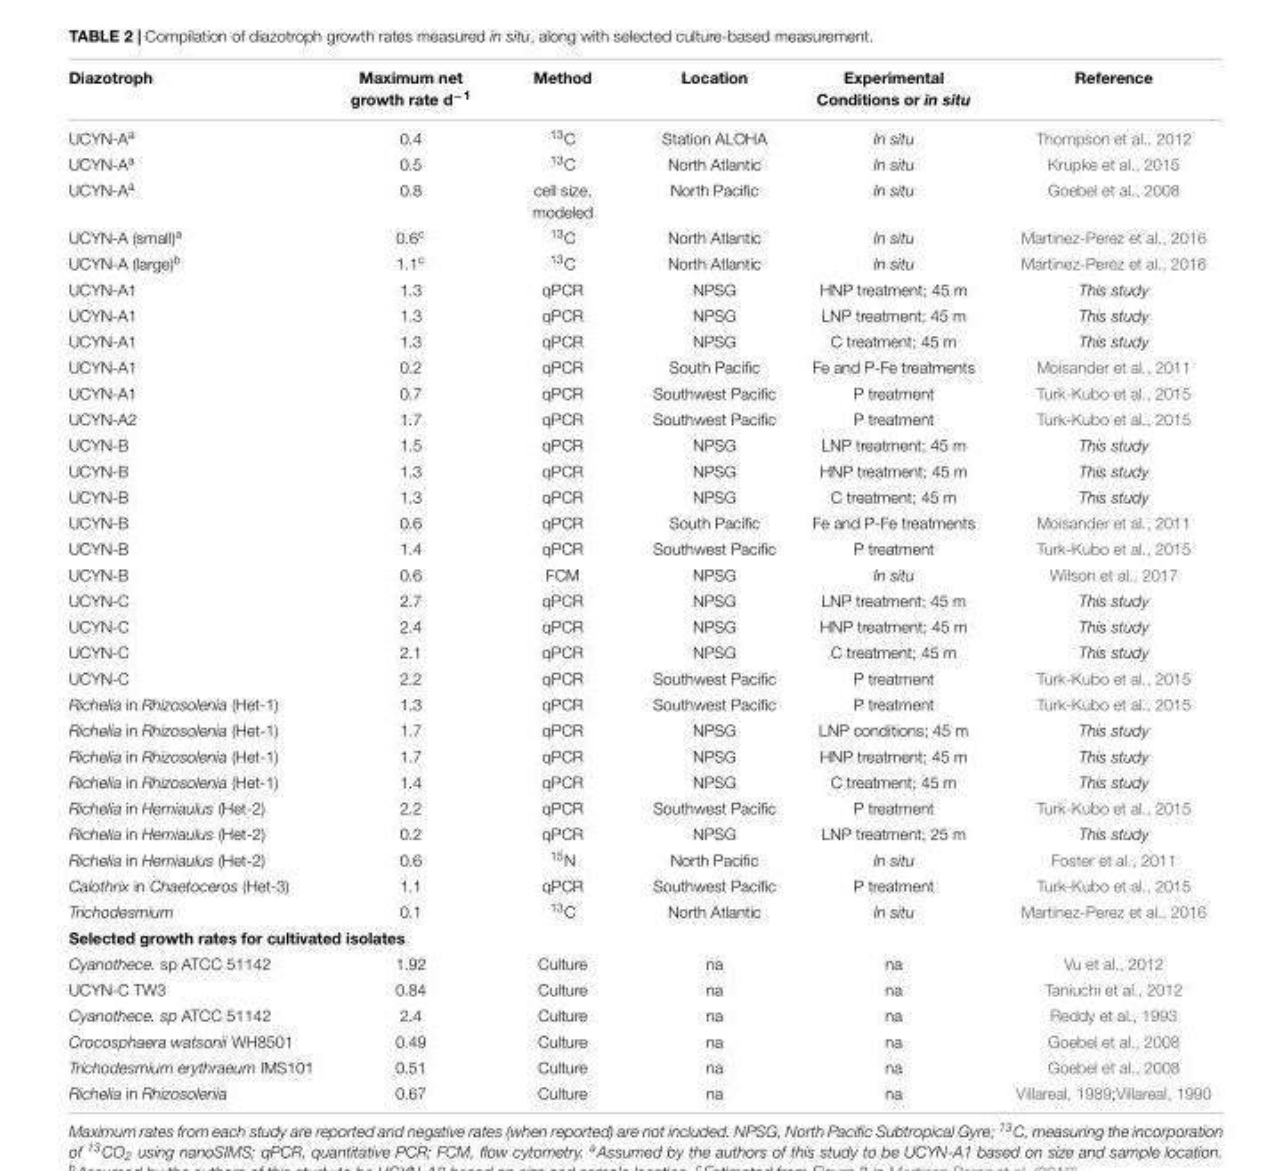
<table><thead><tr><td>Diazotroph</td><td>Maximum net growth rate d<sup>−1</sup></td><td>Method</td><td>Location</td><td>Experimental Conditions or in situ</td><td>Reference</td></tr></thead><tbody><tr><td>UCYN-A<sup>a</sup></td><td>0.4</td><td><sup>13</sup>C</td><td>Station ALOHA</td><td>In situ</td><td>Thompson et al., 2012</td></tr><tr><td>UCYN-A<sup>a</sup></td><td>0.5</td><td><sup>13</sup>C</td><td>North Atlantic</td><td>In situ</td><td>Krupke et al., 2015</td></tr><tr><td>UCYN-A<sup>a</sup></td><td>0.8</td><td>cell size, modeled</td><td>North Pacific</td><td>In situ</td><td>Goebel et al., 2008</td></tr><tr><td>UCYN-A (small)<sup>a</sup></td><td>0.6<sup>c</sup></td><td><sup>13</sup>C</td><td>North Atlantic</td><td>In situ</td><td>Martinez-Perez et al., 2016</td></tr><tr><td>UCYN-A (large)<sup>b</sup></td><td>1.1<sup>c</sup></td><td><sup>13</sup>C</td><td>North Atlantic</td><td>In situ</td><td>Martinez-Perez et al., 2016</td></tr><tr><td>UCYN-A1</td><td>1.3</td><td>qPCR</td><td>NPSG</td><td>HNP treatment; 45 m</td><td>This study</td></tr><tr><td>UCYN-A1</td><td>1.3</td><td>qPCR</td><td>NPSG</td><td>LNP treatment; 45 m</td><td>This study</td></tr><tr><td>UCYN-A1</td><td>1.3</td><td>qPCR</td><td>NPSG</td><td>C treatment; 45 m</td><td>This study</td></tr><tr><td>UCYN-A1</td><td>0.2</td><td>qPCR</td><td>South Pacific</td><td>Fe and P-Fe treatments</td><td>Moisander et al., 2011</td></tr><tr><td>UCYN-A1</td><td>0.7</td><td>qPCR</td><td>Southwest Pacific</td><td>P treatment</td><td>Turk-Kubo et al., 2015</td></tr><tr><td>UCYN-A2</td><td>1.7</td><td>qPCR</td><td>Southwest Pacific</td><td>P treatment</td><td>Turk-Kubo et al., 2015</td></tr><tr><td>UCYN-B</td><td>1.5</td><td>qPCR</td><td>NPSG</td><td>LNP treatment; 45 m</td><td>This study</td></tr><tr><td>UCYN-B</td><td>1.3</td><td>qPCR</td><td>NPSG</td><td>HNP treatment; 45 m</td><td>This study</td></tr><tr><td>UCYN-B</td><td>1.3</td><td>qPCR</td><td>NPSG</td><td>C treatment; 45 m</td><td>This study</td></tr><tr><td>UCYN-B</td><td>0.6</td><td>qPCR</td><td>South Pacific</td><td>Fe and P-Fe treatments</td><td>Moisander et al., 2011</td></tr><tr><td>UCYN-B</td><td>1.4</td><td>qPCR</td><td>Southwest Pacific</td><td>P treatment</td><td>Turk-Kubo et al., 2015</td></tr><tr><td>UCYN-B</td><td>0.6</td><td>FCM</td><td>NPSG</td><td>In situ</td><td>Wilson et al., 2017</td></tr><tr><td>UCYN-C</td><td>2.7</td><td>qPCR</td><td>NPSG</td><td>LNP treatment; 45 m</td><td>This study</td></tr><tr><td>UCYN-C</td><td>2.4</td><td>qPCR</td><td>NPSG</td><td>HNP treatment; 45 m</td><td>This study</td></tr><tr><td>UCYN-C</td><td>2.1</td><td>qPCR</td><td>NPSG</td><td>C treatment; 45 m</td><td>This study</td></tr><tr><td>UCYN-C</td><td>2.2</td><td>qPCR</td><td>Southwest Pacific</td><td>P treatment</td><td>Turk-Kubo et al., 2015</td></tr><tr><td>Richelia in Rhizosolenia (Het-1)</td><td>1.3</td><td>qPCR</td><td>Southwest Pacific</td><td>P treatment</td><td>Turk-Kubo et al., 2015</td></tr><tr><td>Richelia in Rhizosolenia (Het-1)</td><td>1.7</td><td>qPCR</td><td>NPSG</td><td>LNP conditions; 45 m</td><td>This study</td></tr><tr><td>Richelia in Rhizosolenia (Het-1)</td><td>1.7</td><td>qPCR</td><td>NPSG</td><td>HNP treatment; 45 m</td><td>This study</td></tr><tr><td>Richelia in Rhizosolenia (Het-1)</td><td>1.4</td><td>qPCR</td><td>NPSG</td><td>C treatment; 45 m</td><td>This study</td></tr><tr><td>Richelia in Hemiaulus (Het-2)</td><td>2.2</td><td>qPCR</td><td>Southwest Pacific</td><td>P treatment</td><td>Turk-Kubo et al., 2015</td></tr><tr><td>Richelia in Hemiaulus (Het-2)</td><td>0.2</td><td>qPCR</td><td>NPSG</td><td>LNP treatment; 25 m</td><td>This study</td></tr><tr><td>Richelia in Hemiaulus (Het-2)</td><td>0.6</td><td><sup>15</sup>N</td><td>North Pacific</td><td>In situ</td><td>Foster et al., 2011</td></tr><tr><td>Calothrix in Chaetoceros (Het-3)</td><td>1.1</td><td>qPCR</td><td>Southwest Pacific</td><td>P treatment</td><td>Turk-Kubo et al., 2015</td></tr><tr><td>Trichodesmium</td><td>0.1</td><td><sup>13</sup>C</td><td>North Atlantic</td><td>In situ</td><td>Martinez-Perez et al., 2016</td></tr><tr><td colspan="6">Selected growth rates for cultivated isolates</td></tr><tr><td>Cyanothece. sp ATCC 51142</td><td>1.92</td><td>Culture</td><td>na</td><td>na</td><td>Vu et al., 2012</td></tr><tr><td>UCYN-C TW3</td><td>0.84</td><td>Culture</td><td>na</td><td>na</td><td>Taniuchi et al., 2012</td></tr><tr><td>Cyanothece. sp ATCC 51142</td><td>2.4</td><td>Culture</td><td>na</td><td>na</td><td>Reddy et al., 1993</td></tr><tr><td>Crocosphaera watsonii WH8501</td><td>0.49</td><td>Culture</td><td>na</td><td>na</td><td>Goebel et al., 2008</td></tr><tr><td>Trichodesmium erythraeum IMS101</td><td>0.51</td><td>Culture</td><td>na</td><td>na</td><td>Goebel et al., 2008</td></tr><tr><td>Richelia in Rhizosolenia</td><td>0.67</td><td>Culture</td><td>na</td><td>na</td><td>Villareal, 1989;Villareal, 1990</td></tr></tbody></table>